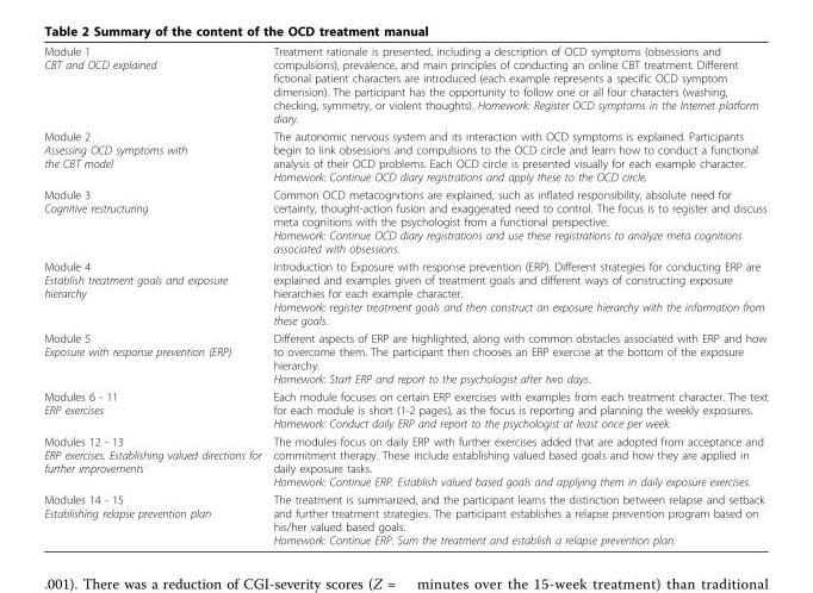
<table><tbody><tr><td>Module 1 CBT and OCD explained</td><td>Treatment rationale is presented, including a description of OCD symptoms (obsessions and compulsions), prevalence, and main principles of conducting an online CBT treatment. Different fictional patient characters are introduced (each example represents a specific OCD symptom dimension). The participant has the opportunity to follow one or all four characters (washing, checking, symmetry, or violent thoughts). Homework: Register OCD symptoms in the Internet platform diary.</td></tr><tr><td>Module 2 Assessing OCD symptoms with the CBT model</td><td>The autonomic nervous system and its interaction with OCD symptoms is explained. Participants begin to link obsessions and compulsions to the OCD circle and learn how to conduct a functional analysis of their OCD problems. Each OCD circle is presented visually for each example character. Homework: Continue OCD diary registrations and apply these to the OCD circle.</td></tr><tr><td>Module 3 Cognitive restructuring</td><td>Common OCD metacognitions are explained, such as inflated responsibility, absolute need for certainty, thought-action fusion and exaggerated need to control. The focus is to register and discuss meta cognitions with the psychologist from a functional perspective. Homework: Continue OCD diary registrations and use these registrations to analyze meta cognitions associated with obsessions.</td></tr><tr><td>Module 4 Establish treatment goals and exposure hierarchy</td><td>Introduction to Exposure with response prevention (ERP). Different strategies for conducting ERP are explained and examples given of treatment goals and different ways of constructing exposure hierarchies for each example character. Homework: register treatment goals and then construct an exposure hierarchy with the information from these goals.</td></tr><tr><td>Module 5 Exposure with response prevention (ERP)</td><td>Different aspects of ERP are highlighted, along with common obstacles associated with ERP and how to overcome them. The participant then chooses an ERP exercise at the bottom of the exposure hierarchy. Homework: Start ERP and report to the psychologist after two days.</td></tr><tr><td>Modules 6 - 11 ERP exercises</td><td>Each module focuses on certain ERP exercises with examples from each treatment character. The text for each module is short (1-2 pages), as the focus is reporting and planning the weekly exposures. Homework: Conduct daily ERP and report to the psychologist at least once per week.</td></tr><tr><td>Modules 12 - 13 ERP exercises. Establishing valued directions for further improvements</td><td>The modules focus on daily ERP with further exercises added that are adopted from acceptance and commitment therapy. These include establishing valued based goals and how they are applied in daily exposure tasks. Homework: Continue ERP. Establish valued based goals and applying them in daily exposure exercises.</td></tr><tr><td>Modules 14 - 15 Establishing relapse prevention plan</td><td>The treatment is summarized, and the participant learns the distinction between relapse and setback and further treatment strategies. The participant establishes a relapse prevention program based on his/her valued based goals. Homework: Continue ERP. Sum the treatment and establish a relapse prevention plan.</td></tr></tbody></table>